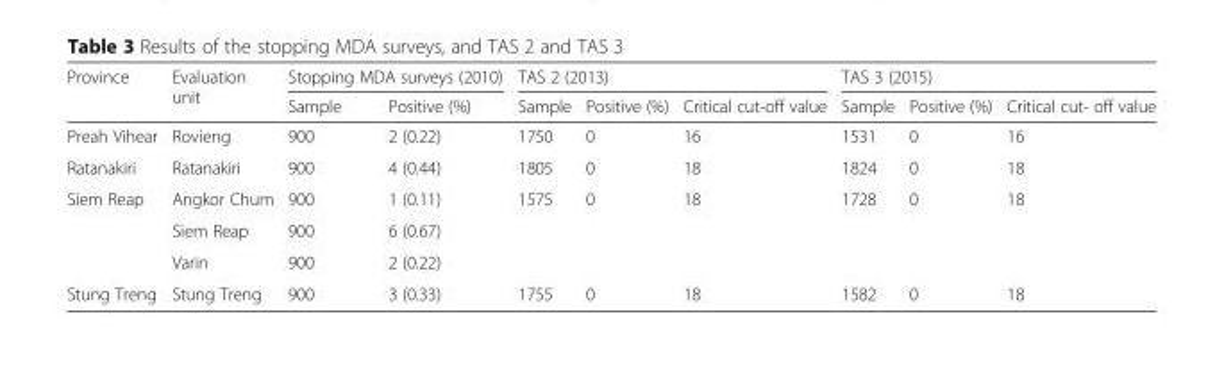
<table><thead><tr><td rowspan="2">Province</td><td rowspan="2">Evaluation unit</td><td colspan="2">Stopping MDA surveys (2010)</td><td colspan="3">TAS 2 (2013)</td><td colspan="3">TAS 3 (2015)</td></tr><tr><td>Sample</td><td>Positive (%)</td><td>Sample</td><td>Positive (%)</td><td>Critical cut-off value</td><td>Sample</td><td>Positive (%)</td><td>Critical cut- off value</td></tr></thead><tbody><tr><td>Preah Vihear</td><td>Rovieng</td><td>900</td><td>2 (0.22)</td><td>1750</td><td>0</td><td>16</td><td>1531</td><td>0</td><td>16</td></tr><tr><td>Ratanakiri</td><td>Ratanakiri</td><td>900</td><td>4 (0.44)</td><td>1805</td><td>0</td><td>18</td><td>1824</td><td>0</td><td>18</td></tr><tr><td rowspan="3">Siem Reap</td><td>Angkor Chum</td><td>900</td><td>1 (0.11)</td><td rowspan="3">1575</td><td rowspan="3">0</td><td rowspan="3">18</td><td rowspan="3">1728</td><td rowspan="3">0</td><td rowspan="3">18</td></tr><tr><td>Siem Reap</td><td>900</td><td>6 (0.67)</td></tr><tr><td>Varin</td><td>900</td><td>2 (0.22)</td></tr><tr><td>Stung Treng</td><td>Stung Treng</td><td>900</td><td>3 (0.33)</td><td>1755</td><td>0</td><td>18</td><td>1582</td><td>0</td><td>18</td></tr></tbody></table>